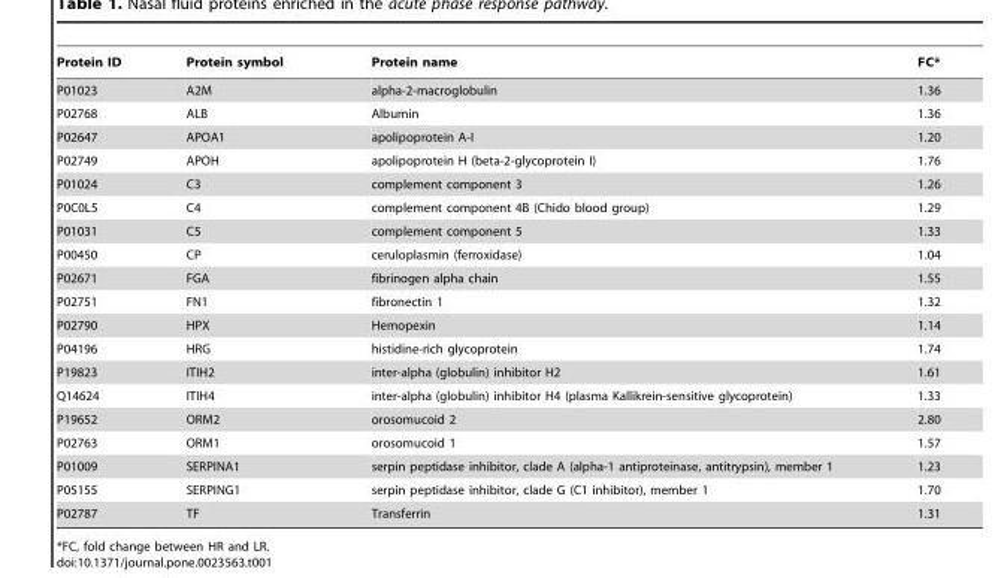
<table><thead><tr><td>Protein ID</td><td>Protein symbol</td><td>Protein name</td><td>FC*</td></tr></thead><tbody><tr><td>P01023</td><td>A2M</td><td>alpha-2-macroglobulin</td><td>1.36</td></tr><tr><td>P02768</td><td>ALB</td><td>Albumin</td><td>1.36</td></tr><tr><td>P02647</td><td>APOA1</td><td>apolipoprotein A-I</td><td>1.20</td></tr><tr><td>P02749</td><td>APOH</td><td>apolipoprotein H (beta-2-glycoprotein I)</td><td>1.76</td></tr><tr><td>P01024</td><td>C3</td><td>complement component 3</td><td>1.26</td></tr><tr><td>P0C0L5</td><td>C4</td><td>complement component 4B (Chido blood group)</td><td>1.29</td></tr><tr><td>P01031</td><td>C5</td><td>complement component 5</td><td>1.33</td></tr><tr><td>P00450</td><td>CP</td><td>ceruloplasmin (ferroxidase)</td><td>1.04</td></tr><tr><td>P02671</td><td>FGA</td><td>fibrinogen alpha chain</td><td>1.55</td></tr><tr><td>P02751</td><td>FN1</td><td>fibronectin 1</td><td>1.32</td></tr><tr><td>P02790</td><td>HPX</td><td>Hemopexin</td><td>1.14</td></tr><tr><td>P04196</td><td>HRG</td><td>histidine-rich glycoprotein</td><td>1.74</td></tr><tr><td>P19823</td><td>ITIH2</td><td>inter-alpha (globulin) inhibitor H2</td><td>1.61</td></tr><tr><td>Q14624</td><td>ITIH4</td><td>inter-alpha (globulin) inhibitor H4 (plasma Kallikrein-sensitive glycoprotein)</td><td>1.33</td></tr><tr><td>P19652</td><td>ORM2</td><td>orosomucoid 2</td><td>2.80</td></tr><tr><td>P02763</td><td>ORM1</td><td>orosomucoid 1</td><td>1.57</td></tr><tr><td>P01009</td><td>SERPINA1</td><td>serpin peptidase inhibitor, clade A (alpha-1 antiproteinase, antitrypsin), member 1</td><td>1.23</td></tr><tr><td>P05155</td><td>SERPING1</td><td>serpin peptidase inhibitor, clade G (C1 inhibitor), member 1</td><td>1.70</td></tr><tr><td>P02787</td><td>TF</td><td>Transferrin</td><td>1.31</td></tr></tbody></table>